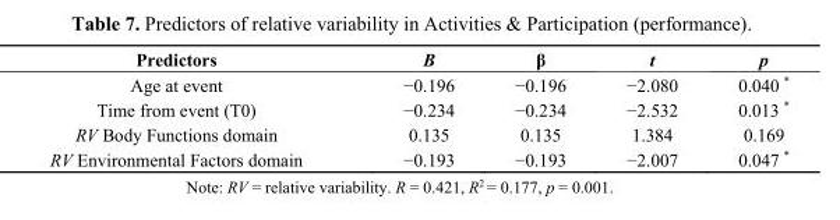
<table><thead><tr><td>Predictors</td><td>B</td><td>β</td><td>t</td><td>p</td></tr></thead><tbody><tr><td>Age at event</td><td>−0.196</td><td>−0.196</td><td>−2.080</td><td>0.040 *</td></tr><tr><td>Time from event (T0)</td><td>−0.234</td><td>−0.234</td><td>−2.532</td><td>0.013 *</td></tr><tr><td>RV Body Functions domain</td><td>0.135</td><td>0.135</td><td>1.384</td><td>0.169</td></tr><tr><td>RV Environmental Factors domain</td><td>−0.193</td><td>−0.193</td><td>−2.007</td><td>0.047 *</td></tr></tbody></table>